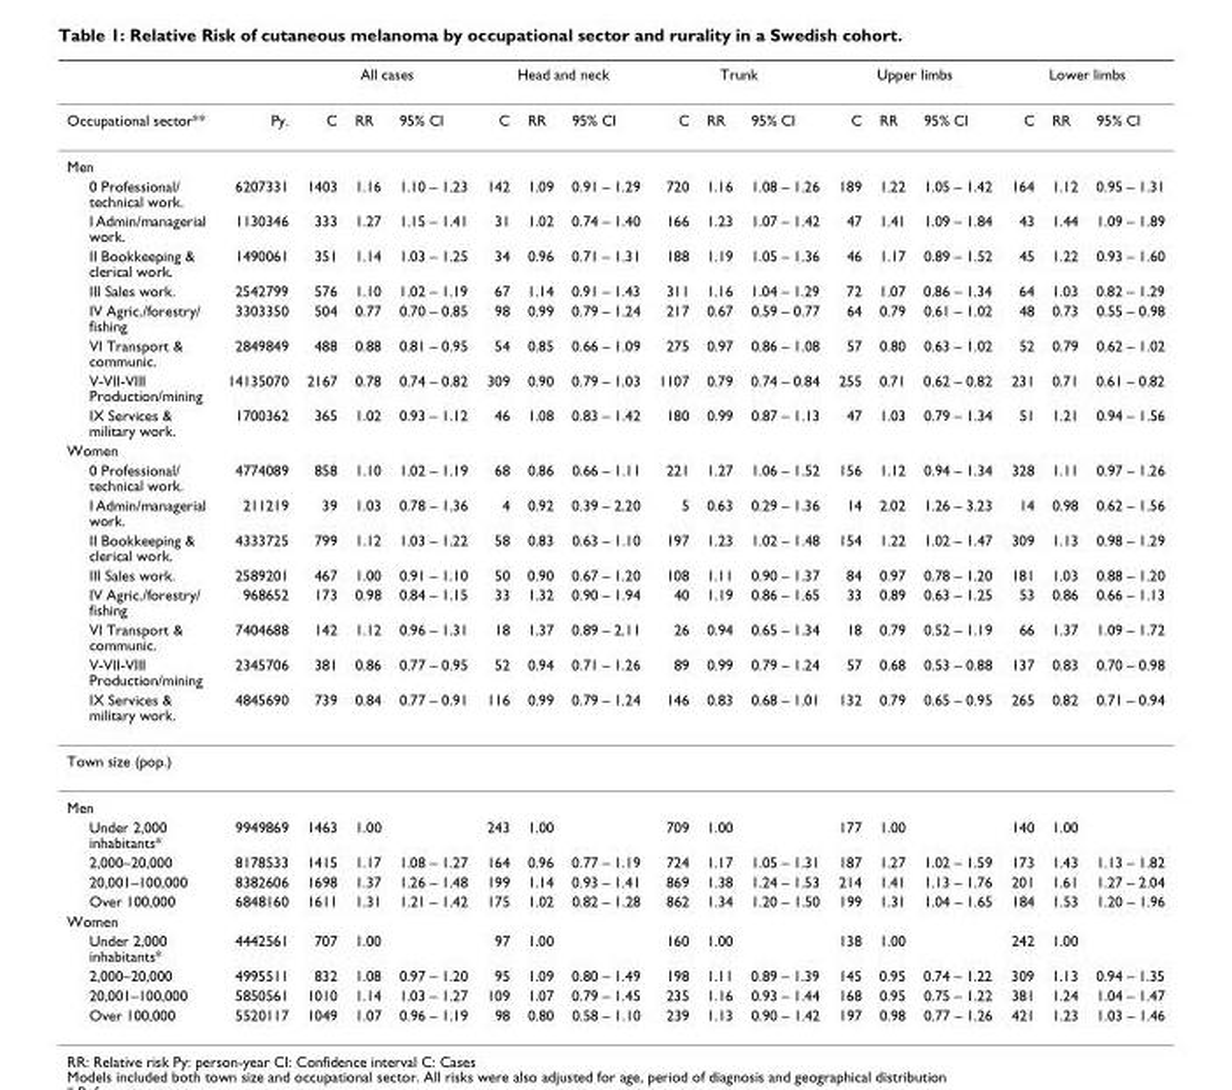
<table><thead><tr><td rowspan="2">Occupational sector**</td><td rowspan="2">Py.</td><td colspan="3">All cases</td><td colspan="3">Head and neck</td><td colspan="3">Trunk</td><td colspan="3">Upper limbs</td><td colspan="3">Lower limbs</td></tr><tr><td>C</td><td>RR</td><td>95% CI</td><td>C</td><td>RR</td><td>95% CI</td><td>C</td><td>RR</td><td>95% CI</td><td>C</td><td>RR</td><td>95% CI</td><td>C</td><td>RR</td><td>95% CI</td></tr></thead><tbody><tr><td colspan="17">Men</td></tr><tr><td>0 Professional/ technical work.</td><td>6207331</td><td>1403</td><td>1.16</td><td>1.10 – 1.23</td><td>142</td><td>1.09</td><td>0.91 – 1.29</td><td>720</td><td>1.16</td><td>1.08 – 1.26</td><td>189</td><td>1.22</td><td>1.05 – 1.42</td><td>164</td><td>1.12</td><td>0.95 – 1.31</td></tr><tr><td>I Admin/managerial work.</td><td>1130346</td><td>333</td><td>1.27</td><td>1.15 – 1.41</td><td>31</td><td>1.02</td><td>0.74 – 1.40</td><td>166</td><td>1.23</td><td>1.07 – 1.42</td><td>47</td><td>1.41</td><td>1.09 – 1.84</td><td>43</td><td>1.44</td><td>1.09 – 1.89</td></tr><tr><td>II Bookkeeping &amp; clerical work.</td><td>1490061</td><td>351</td><td>1.14</td><td>1.03 – 1.25</td><td>34</td><td>0.96</td><td>0.71 – 1.31</td><td>188</td><td>1.19</td><td>1.05 – 1.36</td><td>46</td><td>1.17</td><td>0.89 – 1.52</td><td>45</td><td>1.22</td><td>0.93 – 1.60</td></tr><tr><td>III Sales work.</td><td>2542799</td><td>576</td><td>1.10</td><td>1.02 – 1.19</td><td>67</td><td>1.14</td><td>0.91 – 1.43</td><td>311</td><td>1.16</td><td>1.04 – 1.29</td><td>72</td><td>1.07</td><td>0.86 – 1.34</td><td>64</td><td>1.03</td><td>0.82 – 1.29</td></tr><tr><td>IV Agric./forestry/ fishing</td><td>3303350</td><td>504</td><td>0.77</td><td>0.70 – 0.85</td><td>98</td><td>0.99</td><td>0.79 – 1.24</td><td>217</td><td>0.67</td><td>0.59 – 0.77</td><td>64</td><td>0.79</td><td>0.61 – 1.02</td><td>48</td><td>0.73</td><td>0.55 – 0.98</td></tr><tr><td>VI Transport &amp; communic.</td><td>2849849</td><td>488</td><td>0.88</td><td>0.81 – 0.95</td><td>54</td><td>0.85</td><td>0.66 – 1.09</td><td>275</td><td>0.97</td><td>0.86 – 1.08</td><td>57</td><td>0.80</td><td>0.63 – 1.02</td><td>52</td><td>0.79</td><td>0.62 – 1.02</td></tr><tr><td>V-VII-VIII Production/mining</td><td>14135070</td><td>2167</td><td>0.78</td><td>0.74 – 0.82</td><td>309</td><td>0.90</td><td>0.79 – 1.03</td><td>1107</td><td>0.79</td><td>0.74 – 0.84</td><td>255</td><td>0.71</td><td>0.62 – 0.82</td><td>231</td><td>0.71</td><td>0.61 – 0.82</td></tr><tr><td>IX Services &amp; military work.</td><td>1700362</td><td>365</td><td>1.02</td><td>0.93 – 1.12</td><td>46</td><td>1.08</td><td>0.83 – 1.42</td><td>180</td><td>0.99</td><td>0.87 – 1.13</td><td>47</td><td>1.03</td><td>0.79 – 1.34</td><td>51</td><td>1.21</td><td>0.94 – 1.56</td></tr><tr><td colspan="17">Women</td></tr><tr><td>0 Professional/ technical work.</td><td>4774089</td><td>858</td><td>1.10</td><td>1.02 – 1.19</td><td>68</td><td>0.86</td><td>0.66 – 1.11</td><td>221</td><td>1.27</td><td>1.06 – 1.52</td><td>156</td><td>1.12</td><td>0.94 – 1.34</td><td>328</td><td>1.11</td><td>0.97 – 1.26</td></tr><tr><td>I Admin/managerial work.</td><td>211219</td><td>39</td><td>1.03</td><td>0.78 – 1.36</td><td>4</td><td>0.92</td><td>0.39 – 2.20</td><td>5</td><td>0.63</td><td>0.29 – 1.36</td><td>14</td><td>2.02</td><td>1.26 – 3.23</td><td>14</td><td>0.98</td><td>0.62 – 1.56</td></tr><tr><td>II Bookkeeping &amp; clerical work.</td><td>4333725</td><td>799</td><td>1.12</td><td>1.03 – 1.22</td><td>58</td><td>0.83</td><td>0.63 – 1.10</td><td>197</td><td>1.23</td><td>1.02 – 1.48</td><td>154</td><td>1.22</td><td>1.02 – 1.47</td><td>309</td><td>1.13</td><td>0.98 – 1.29</td></tr><tr><td>III Sales work.</td><td>2589201</td><td>467</td><td>1.00</td><td>0.91 – 1.10</td><td>50</td><td>0.90</td><td>0.67 – 1.20</td><td>108</td><td>1.11</td><td>0.90 – 1.37</td><td>84</td><td>0.97</td><td>0.78 – 1.20</td><td>181</td><td>1.03</td><td>0.88 – 1.20</td></tr><tr><td>IV Agric./forestry/ fishing</td><td>968652</td><td>173</td><td>0.98</td><td>0.84 – 1.15</td><td>33</td><td>1.32</td><td>0.90 – 1.94</td><td>40</td><td>1.19</td><td>0.86 – 1.65</td><td>33</td><td>0.89</td><td>0.63 – 1.25</td><td>53</td><td>0.86</td><td>0.66 – 1.13</td></tr><tr><td>VI Transport &amp; communic.</td><td>7404688</td><td>142</td><td>1.12</td><td>0.96 – 1.31</td><td>18</td><td>1.37</td><td>0.89 – 2.11</td><td>26</td><td>0.94</td><td>0.65 – 1.34</td><td>18</td><td>0.79</td><td>0.52 – 1.19</td><td>66</td><td>1.37</td><td>1.09 – 1.72</td></tr><tr><td>V-VII-VIII Production/mining</td><td>2345706</td><td>381</td><td>0.86</td><td>0.77 – 0.95</td><td>52</td><td>0.94</td><td>0.71 – 1.26</td><td>89</td><td>0.99</td><td>0.79 – 1.24</td><td>57</td><td>0.68</td><td>0.53 – 0.88</td><td>137</td><td>0.83</td><td>0.70 – 0.98</td></tr><tr><td>IX Services &amp; military work.</td><td>4845690</td><td>739</td><td>0.84</td><td>0.77 – 0.91</td><td>116</td><td>0.99</td><td>0.79 – 1.24</td><td>146</td><td>0.83</td><td>0.68 – 1.01</td><td>132</td><td>0.79</td><td>0.65 – 0.95</td><td>265</td><td>0.82</td><td>0.71 – 0.94</td></tr><tr><td colspan="17">Town size (pop.)</td></tr><tr><td colspan="17">Men</td></tr><tr><td>Under 2,000 inhabitants*</td><td>9949869</td><td>1463</td><td>1.00</td><td></td><td>243</td><td>1.00</td><td></td><td>709</td><td>1.00</td><td></td><td>177</td><td>1.00</td><td></td><td>140</td><td>1.00</td><td></td></tr><tr><td>2,000–20,000</td><td>8178533</td><td>1415</td><td>1.17</td><td>1.08 – 1.27</td><td>164</td><td>0.96</td><td>0.77 – 1.19</td><td>724</td><td>1.17</td><td>1.05 – 1.31</td><td>187</td><td>1.27</td><td>1.02 – 1.59</td><td>173</td><td>1.43</td><td>1.13 – 1.82</td></tr><tr><td>20,001–100,000</td><td>8382606</td><td>1698</td><td>1.37</td><td>1.26 – 1.48</td><td>199</td><td>1.14</td><td>0.93 – 1.41</td><td>869</td><td>1.38</td><td>1.24 – 1.53</td><td>214</td><td>1.41</td><td>1.13 – 1.76</td><td>201</td><td>1.61</td><td>1.27 – 2.04</td></tr><tr><td>Over 100,000</td><td>6848160</td><td>1611</td><td>1.31</td><td>1.21 – 1.42</td><td>175</td><td>1.02</td><td>0.82 – 1.28</td><td>862</td><td>1.34</td><td>1.20 – 1.50</td><td>199</td><td>1.31</td><td>1.04 – 1.65</td><td>184</td><td>1.53</td><td>1.20 – 1.96</td></tr><tr><td colspan="17">Women</td></tr><tr><td>Under 2,000 inhabitants*</td><td>4442561</td><td>707</td><td>1.00</td><td></td><td>97</td><td>1.00</td><td></td><td>160</td><td>1.00</td><td></td><td>138</td><td>1.00</td><td></td><td>242</td><td>1.00</td><td></td></tr><tr><td>2,000–20,000</td><td>4995511</td><td>832</td><td>1.08</td><td>0.97 – 1.20</td><td>95</td><td>1.09</td><td>0.80 – 1.49</td><td>198</td><td>1.11</td><td>0.89 – 1.39</td><td>145</td><td>0.95</td><td>0.74 – 1.22</td><td>309</td><td>1.13</td><td>0.94 – 1.35</td></tr><tr><td>20,001–100,000</td><td>5850561</td><td>1010</td><td>1.14</td><td>1.03 – 1.27</td><td>109</td><td>1.07</td><td>0.79 – 1.45</td><td>235</td><td>1.16</td><td>0.93 – 1.44</td><td>168</td><td>0.95</td><td>0.75 – 1.22</td><td>381</td><td>1.24</td><td>1.04 – 1.47</td></tr><tr><td>Over 100,000</td><td>5520117</td><td>1049</td><td>1.07</td><td>0.96 – 1.19</td><td>98</td><td>0.80</td><td>0.58 – 1.10</td><td>239</td><td>1.13</td><td>0.90 – 1.42</td><td>197</td><td>0.98</td><td>0.77 – 1.26</td><td>421</td><td>1.23</td><td>1.03 – 1.46</td></tr></tbody></table>